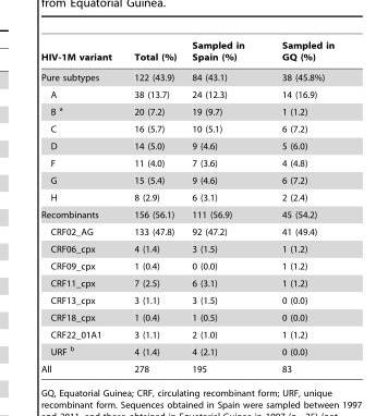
<table><thead><tr><td>HIV-1M variant</td><td>Total (%)</td><td>Sampled in Spain (%)</td><td>Sampled in GQ (%)</td></tr></thead><tbody><tr><td>Pure subtypes</td><td>122 (43.9)</td><td>84 (43.1)</td><td>38 (45.8%)</td></tr><tr><td>A</td><td>38 (13.7)</td><td>24 (12.3)</td><td>14 (16.9)</td></tr><tr><td>B a</td><td>20 (7.2)</td><td>19 (9.7)</td><td>1 (1.2)</td></tr><tr><td>C</td><td>16 (5.7)</td><td>10 (5.1)</td><td>6 (7.2)</td></tr><tr><td>D</td><td>14 (5.0)</td><td>9 (4.6)</td><td>5 (6.0)</td></tr><tr><td>F</td><td>11 (4.0)</td><td>7 (3.6)</td><td>4 (4.8)</td></tr><tr><td>G</td><td>15 (5.4)</td><td>9 (4.6)</td><td>6 (7.2)</td></tr><tr><td>H</td><td>8 (2.9)</td><td>6 (3.1)</td><td>2 (2.4)</td></tr><tr><td>Recombinants</td><td>156 (56.1)</td><td>111 (56.9)</td><td>45 (54.2)</td></tr><tr><td>CRF02_AG</td><td>133 (47.8)</td><td>92 (47.2)</td><td>41 (49.4)</td></tr><tr><td>CRF06_cpx</td><td>4 (1.4)</td><td>3 (1.5)</td><td>1 (1.2)</td></tr><tr><td>CRF09_cpx</td><td>1 (0.4)</td><td>0 (0.0)</td><td>1 (1.2)</td></tr><tr><td>CRF11_cpx</td><td>7 (2.5)</td><td>6 (3.1)</td><td>1 (1.2)</td></tr><tr><td>CRF13_cpx</td><td>3 (1.1)</td><td>3 (1.5)</td><td>0 (0.0)</td></tr><tr><td>CRF18_cpx</td><td>1 (0.4)</td><td>1 (0.5)</td><td>0 (0.0)</td></tr><tr><td>CRF22_01A1</td><td>3 (1.1)</td><td>2 (1.0)</td><td>1 (1.2)</td></tr><tr><td>URF b</td><td>4 (1.4)</td><td>4 (2.1)</td><td>0 (0.0)</td></tr><tr><td>All</td><td>278</td><td>195</td><td>83</td></tr></tbody></table>